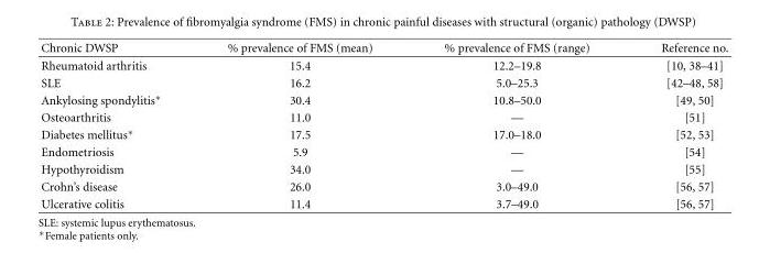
<table><thead><tr><td>Chronic DWSP</td><td>% prevalence of FMS (mean)</td><td>% prevalence of FMS (range)</td><td>Reference no.</td></tr></thead><tbody><tr><td>Rheumatoid arthritis</td><td>15.4</td><td>12.2–19.8</td><td>[10, 38–41]</td></tr><tr><td>SLE</td><td>16.2</td><td>5.0–25.3</td><td>[42–48, 58]</td></tr><tr><td>Ankylosing spondylitis∗</td><td>30.4</td><td>10.8–50.0</td><td>[49, 50]</td></tr><tr><td>Osteoarthritis</td><td>11.0</td><td>—</td><td>[51]</td></tr><tr><td>Diabetes mellitus∗</td><td>17.5</td><td>17.0–18.0</td><td>[52, 53]</td></tr><tr><td>Endometriosis</td><td>5.9</td><td>—</td><td>[54]</td></tr><tr><td>Hypothyroidism</td><td>34.0</td><td>—</td><td>[55]</td></tr><tr><td>Crohn’s disease</td><td>26.0</td><td>3.0–49.0</td><td>[56, 57]</td></tr><tr><td>Ulcerative colitis</td><td>11.4</td><td>3.7–49.0</td><td>[56, 57]</td></tr></tbody></table>